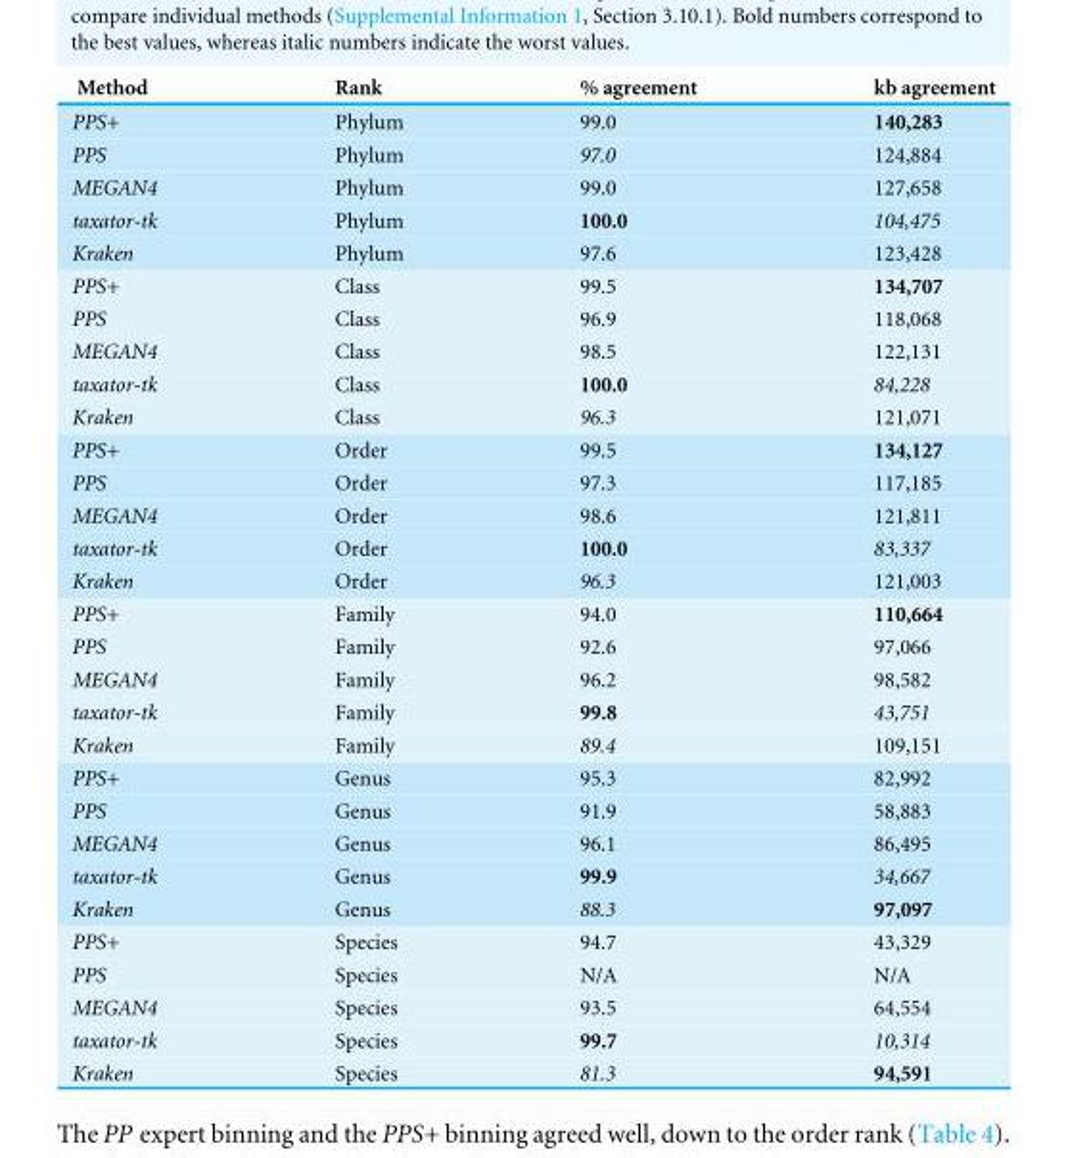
<table><thead><tr><td>Method</td><td>Rank</td><td>% agreement</td><td>kb agreement</td></tr></thead><tbody><tr><td>PPS+</td><td>Phylum</td><td>99.0</td><td>140,283</td></tr><tr><td>PPS</td><td>Phylum</td><td>97.0</td><td>124,884</td></tr><tr><td>MEGAN4</td><td>Phylum</td><td>99.0</td><td>127,658</td></tr><tr><td>taxator-tk</td><td>Phylum</td><td>100.0</td><td>104,475</td></tr><tr><td>Kraken</td><td>Phylum</td><td>97.6</td><td>123,428</td></tr><tr><td>PPS+</td><td>Class</td><td>99.5</td><td>134,707</td></tr><tr><td>PPS</td><td>Class</td><td>96.9</td><td>118,068</td></tr><tr><td>MEGAN4</td><td>Class</td><td>98.5</td><td>122,131</td></tr><tr><td>taxator-tk</td><td>Class</td><td>100.0</td><td>84,228</td></tr><tr><td>Kraken</td><td>Class</td><td>96.3</td><td>121,071</td></tr><tr><td>PPS+</td><td>Order</td><td>99.5</td><td>134,127</td></tr><tr><td>PPS</td><td>Order</td><td>97.3</td><td>117,185</td></tr><tr><td>MEGAN4</td><td>Order</td><td>98.6</td><td>121,811</td></tr><tr><td>taxator-tk</td><td>Order</td><td>100.0</td><td>83,337</td></tr><tr><td>Kraken</td><td>Order</td><td>96.3</td><td>121,003</td></tr><tr><td>PPS+</td><td>Family</td><td>94.0</td><td>110,664</td></tr><tr><td>PPS</td><td>Family</td><td>92.6</td><td>97,066</td></tr><tr><td>MEGAN4</td><td>Family</td><td>96.2</td><td>98,582</td></tr><tr><td>taxator-tk</td><td>Family</td><td>99.8</td><td>43,751</td></tr><tr><td>Kraken</td><td>Family</td><td>89.4</td><td>109,151</td></tr><tr><td>PPS+</td><td>Genus</td><td>95.3</td><td>82,992</td></tr><tr><td>PPS</td><td>Genus</td><td>91.9</td><td>58,883</td></tr><tr><td>MEGAN4</td><td>Genus</td><td>96.1</td><td>86,495</td></tr><tr><td>taxator-tk</td><td>Genus</td><td>99.9</td><td>34,667</td></tr><tr><td>Kraken</td><td>Genus</td><td>88.3</td><td>97,097</td></tr><tr><td>PPS+</td><td>Species</td><td>94.7</td><td>43,329</td></tr><tr><td>PPS</td><td>Species</td><td>N/A</td><td>N/A</td></tr><tr><td>MEGAN4</td><td>Species</td><td>93.5</td><td>64,554</td></tr><tr><td>taxator-tk</td><td>Species</td><td>99.7</td><td>10,314</td></tr><tr><td>Kraken</td><td>Species</td><td>81.3</td><td>94,591</td></tr></tbody></table>